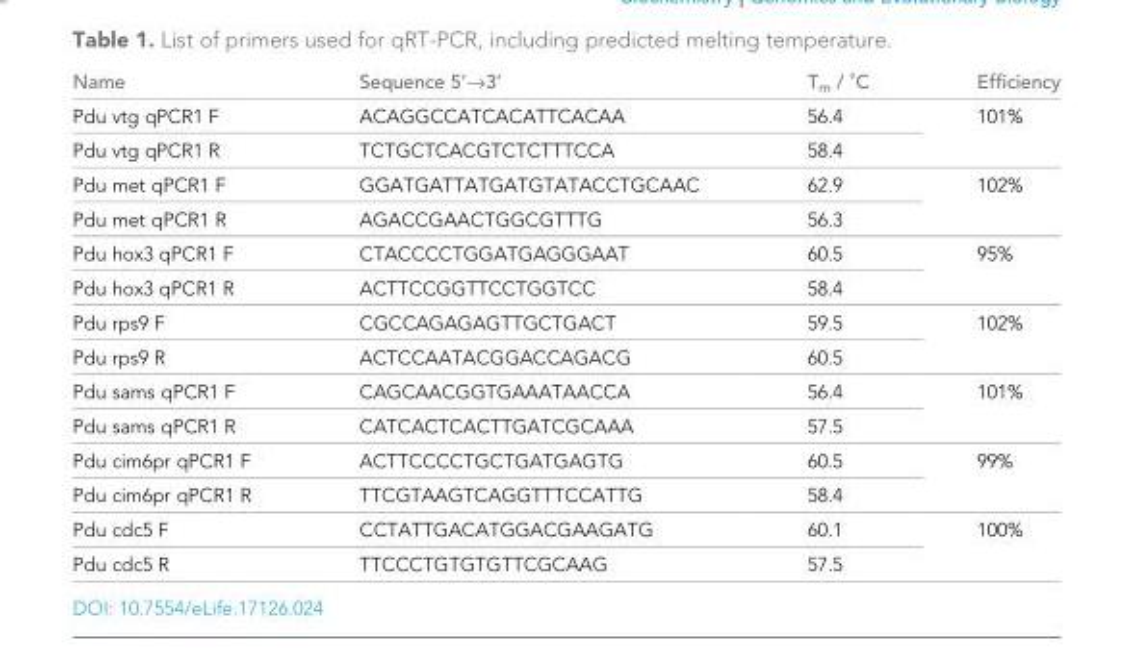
<table><thead><tr><td>Name</td><td>Sequence 5’fi3’</td><td>Tm / ˚C</td><td>Efficiency</td></tr></thead><tbody><tr><td>Pdu vtg qPCR1 F</td><td>ACAGGCCATCACATTCACAA</td><td>56.4</td><td rowspan="2">101%</td></tr><tr><td>Pdu vtg qPCR1 R</td><td>TCTGCTCACGTCTCTTTCCA</td><td>58.4</td></tr><tr><td>Pdu met qPCR1 F</td><td>GGATGATTATGATGTATACCTGCAAC</td><td>62.9</td><td rowspan="2">102%</td></tr><tr><td>Pdu met qPCR1 R</td><td>AGACCGAACTGGCGTTTG</td><td>56.3</td></tr><tr><td>Pdu hox3 qPCR1 F</td><td>CTACCCCTGGATGAGGGAAT</td><td>60.5</td><td rowspan="2">95%</td></tr><tr><td>Pdu hox3 qPCR1 R</td><td>ACTTCCGGTTCCTGGTCC</td><td>58.4</td></tr><tr><td>Pdu rps9 F</td><td>CGCCAGAGAGTTGCTGACT</td><td>59.5</td><td rowspan="2">102%</td></tr><tr><td>Pdu rps9 R</td><td>ACTCCAATACGGACCAGACG</td><td>60.5</td></tr><tr><td>Pdu sams qPCR1 F</td><td>CAGCAACGGTGAAATAACCA</td><td>56.4</td><td rowspan="2">101%</td></tr><tr><td>Pdu sams qPCR1 R</td><td>CATCACTCACTTGATCGCAAA</td><td>57.5</td></tr><tr><td>Pdu cim6pr qPCR1 F</td><td>ACTTCCCCTGCTGATGAGTG</td><td>60.5</td><td rowspan="2">99%</td></tr><tr><td>Pdu cim6pr qPCR1 R</td><td>TTCGTAAGTCAGGTTTCCATTG</td><td>58.4</td></tr><tr><td>Pdu cdc5 F</td><td>CCTATTGACATGGACGAAGATG</td><td>60.1</td><td rowspan="2">100%</td></tr><tr><td>Pdu cdc5 R</td><td>TTCCCTGTGTGTTCGCAAG</td><td>57.5</td></tr></tbody></table>